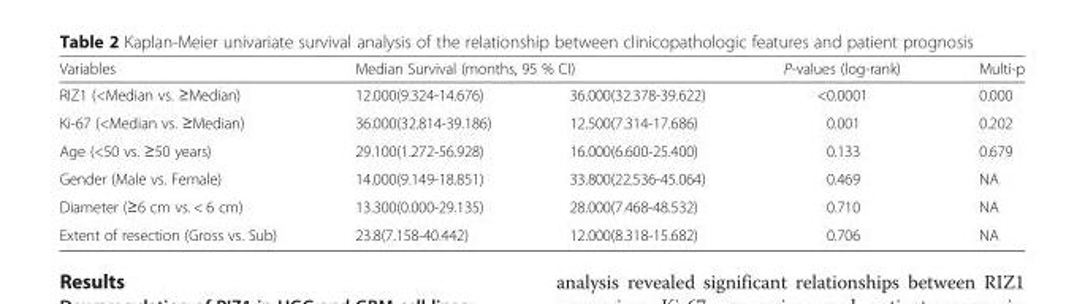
<table><thead><tr><td rowspan="2">Variables RIZ1 (&lt;Median vs. ≥Median)</td><td colspan="2">Median Survival (months, 95 % CI)</td><td rowspan="2">P-values (log-rank) &lt;0.0001</td><td rowspan="2">Multi-p 0.000</td></tr><tr><td>12.000(9.324-14.676)</td><td>36.000(32.378-39.622)</td></tr></thead><tbody><tr><td>Ki-67 (&lt;Median vs. ≥Median)</td><td>36.000(32.814-39.186)</td><td>12.500(7.314-17.686)</td><td>0.001</td><td>0.202</td></tr><tr><td>Age (&lt;50 vs. ≥50 years)</td><td>29.100(1.272-56.928)</td><td>16.000(6.600-25.400)</td><td>0.133</td><td>0.679</td></tr><tr><td>Gender (Male vs. Female)</td><td>14.000(9.149-18.851)</td><td>33.800(22.536-45.064)</td><td>0.469</td><td>NA</td></tr><tr><td>Diameter (≥6 cm vs. &lt; 6 cm)</td><td>13.300(0.000-29.135)</td><td>28.000(7.468-48.532)</td><td>0.710</td><td>NA</td></tr><tr><td>Extent of resection (Gross vs. Sub)</td><td>23.8(7.158-40.442)</td><td>12.000(8.318-15.682)</td><td>0.706</td><td>NA</td></tr></tbody></table>